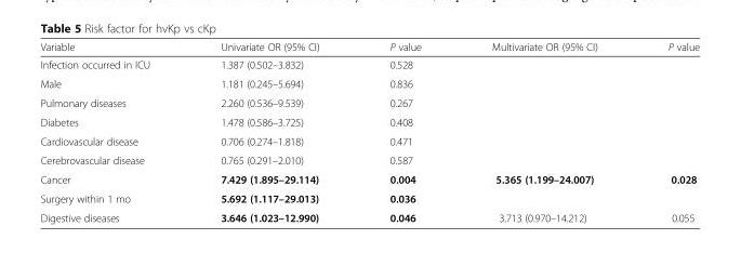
<table><thead><tr><td>Variable</td><td>Univariate OR (95% CI)</td><td>P value</td><td>Multivariate OR (95% CI)</td><td>P value</td></tr></thead><tbody><tr><td>Infection occurred in ICU</td><td>1.387 (0.502–3.832)</td><td>0.528</td><td></td><td></td></tr><tr><td>Male</td><td>1.181 (0.245–5.694)</td><td>0.836</td><td></td><td></td></tr><tr><td>Pulmonary diseases</td><td>2.260 (0.536–9.539)</td><td>0.267</td><td></td><td></td></tr><tr><td>Diabetes</td><td>1.478 (0.586–3.725)</td><td>0.408</td><td></td><td></td></tr><tr><td>Cardiovascular disease</td><td>0.706 (0.274–1.818)</td><td>0.471</td><td></td><td></td></tr><tr><td>Cerebrovascular disease</td><td>0.765 (0.291–2.010)</td><td>0.587</td><td></td><td></td></tr><tr><td>Cancer</td><td>7.429 (1.895–29.114)</td><td>0.004</td><td>5.365 (1.199–24.007)</td><td>0.028</td></tr><tr><td>Surgery within 1 mo</td><td>5.692 (1.117–29.013)</td><td>0.036</td><td></td><td></td></tr><tr><td>Digestive diseases</td><td>3.646 (1.023–12.990)</td><td>0.046</td><td>3.713 (0.970–14.212)</td><td>0.055</td></tr></tbody></table>